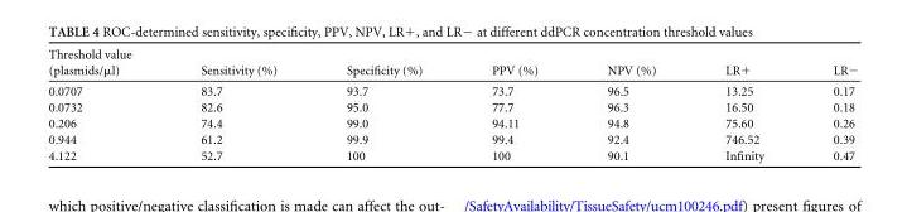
<table><thead><tr><td>Threshold value (plasmids/μl)</td><td>Sensitivity (%)</td><td>Specificity (%)</td><td>PPV (%)</td><td>NPV (%)</td><td>LR+</td><td>LR−</td></tr></thead><tbody><tr><td>0.0707</td><td>83.7</td><td>93.7</td><td>73.7</td><td>96.5</td><td>13.25</td><td>0.17</td></tr><tr><td>0.0732</td><td>82.6</td><td>95.0</td><td>77.7</td><td>96.3</td><td>16.50</td><td>0.18</td></tr><tr><td>0.206</td><td>74.4</td><td>99.0</td><td>94.11</td><td>94.8</td><td>75.60</td><td>0.26</td></tr><tr><td>0.944</td><td>61.2</td><td>99.9</td><td>99.4</td><td>92.4</td><td>746.52</td><td>0.39</td></tr><tr><td>4.122</td><td>52.7</td><td>100</td><td>100</td><td>90.1</td><td>Infinity</td><td>0.47</td></tr></tbody></table>